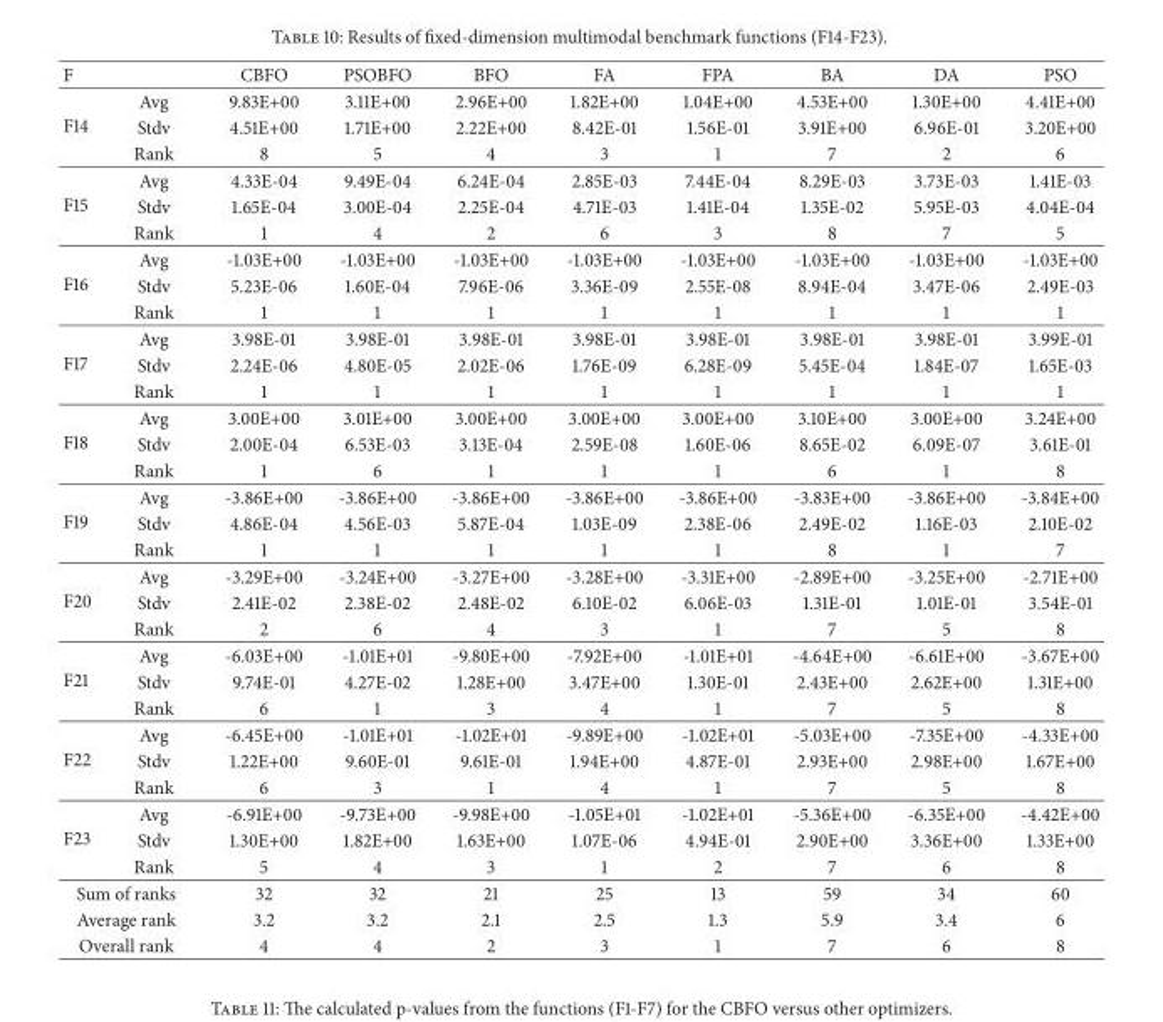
<table><thead><tr><td>F</td><td></td><td>CBFO</td><td>PSOBFO</td><td>BFO</td><td>FA</td><td>FPA</td><td>BA</td><td>DA</td><td>PSO</td></tr></thead><tbody><tr><td rowspan="3">F14</td><td>Avg</td><td>9.83E+00</td><td>3.11E+00</td><td>2.96E+00</td><td>1.82E+00</td><td>1.04E+00</td><td>4.53E+00</td><td>1.30E+00</td><td>4.41E+00</td></tr><tr><td>Stdv</td><td>4.51E+00</td><td>1.71E+00</td><td>2.22E+00</td><td>8.42E-01</td><td>1.56E-01</td><td>3.91E+00</td><td>6.96E-01</td><td>3.20E+00</td></tr><tr><td>Rank</td><td>8</td><td>5</td><td>4</td><td>3</td><td>1</td><td>7</td><td>2</td><td>6</td></tr><tr><td rowspan="3">F15</td><td>Avg</td><td>4.33E-04</td><td>9.49E-04</td><td>6.24E-04</td><td>2.85E-03</td><td>7.44E-04</td><td>8.29E-03</td><td>3.73E-03</td><td>1.41E-03</td></tr><tr><td>Stdv</td><td>1.65E-04</td><td>3.00E-04</td><td>2.25E-04</td><td>4.71E-03</td><td>1.41E-04</td><td>1.35E-02</td><td>5.95E-03</td><td>4.04E-04</td></tr><tr><td>Rank</td><td>1</td><td>4</td><td>2</td><td>6</td><td>3</td><td>8</td><td>7</td><td>5</td></tr><tr><td rowspan="3">F16</td><td>Avg</td><td>-1.03E+00</td><td>-1.03E+00</td><td>-1.03E+00</td><td>-1.03E+00</td><td>-1.03E+00</td><td>-1.03E+00</td><td>-1.03E+00</td><td>-1.03E+00</td></tr><tr><td>Stdv</td><td>5.23E-06</td><td>1.60E-04</td><td>7.96E-06</td><td>3.36E-09</td><td>2.55E-08</td><td>8.94E-04</td><td>3.47E-06</td><td>2.49E-03</td></tr><tr><td>Rank</td><td>1</td><td>1</td><td>1</td><td>1</td><td>1</td><td>1</td><td>1</td><td>1</td></tr><tr><td rowspan="3">F17</td><td>Avg</td><td>3.98E-01</td><td>3.98E-01</td><td>3.98E-01</td><td>3.98E-01</td><td>3.98E-01</td><td>3.98E-01</td><td>3.98E-01</td><td>3.99E-01</td></tr><tr><td>Stdv</td><td>2.24E-06</td><td>4.80E-05</td><td>2.02E-06</td><td>1.76E-09</td><td>6.28E-09</td><td>5.45E-04</td><td>1.84E-07</td><td>1.65E-03</td></tr><tr><td>Rank</td><td>1</td><td>1</td><td>1</td><td>1</td><td>1</td><td>1</td><td>1</td><td>1</td></tr><tr><td rowspan="3">F18</td><td>Avg</td><td>3.00E+00</td><td>3.01E+00</td><td>3.00E+00</td><td>3.00E+00</td><td>3.00E+00</td><td>3.10E+00</td><td>3.00E+00</td><td>3.24E+00</td></tr><tr><td>Stdv</td><td>2.00E-04</td><td>6.53E-03</td><td>3.13E-04</td><td>2.59E-08</td><td>1.60E-06</td><td>8.65E-02</td><td>6.09E-07</td><td>3.61E-01</td></tr><tr><td>Rank</td><td>1</td><td>6</td><td>1</td><td>1</td><td>1</td><td>6</td><td>1</td><td>8</td></tr><tr><td rowspan="3">F19</td><td>Avg</td><td>-3.86E+00</td><td>-3.86E+00</td><td>-3.86E+00</td><td>-3.86E+00</td><td>-3.86E+00</td><td>-3.83E+00</td><td>-3.86E+00</td><td>-3.84E+00</td></tr><tr><td>Stdv</td><td>4.86E-04</td><td>4.56E-03</td><td>5.87E-04</td><td>1.03E-09</td><td>2.38E-06</td><td>2.49E-02</td><td>1.16E-03</td><td>2.10E-02</td></tr><tr><td>Rank</td><td>1</td><td>1</td><td>1</td><td>1</td><td>1</td><td>8</td><td>1</td><td>7</td></tr><tr><td rowspan="3">F20</td><td>Avg</td><td>-3.29E+00</td><td>-3.24E+00</td><td>-3.27E+00</td><td>-3.28E+00</td><td>-3.31E+00</td><td>-2.89E+00</td><td>-3.25E+00</td><td>-2.71E+00</td></tr><tr><td>Stdv</td><td>2.41E-02</td><td>2.38E-02</td><td>2.48E-02</td><td>6.10E-02</td><td>6.06E-03</td><td>1.31E-01</td><td>1.01E-01</td><td>3.54E-01</td></tr><tr><td>Rank</td><td>2</td><td>6</td><td>4</td><td>3</td><td>1</td><td>7</td><td>5</td><td>8</td></tr><tr><td rowspan="3">F21</td><td>Avg</td><td>-6.03E+00</td><td>-1.01E+01</td><td>-9.80E+00</td><td>-7.92E+00</td><td>-1.01E+01</td><td>-4.64E+00</td><td>-6.61E+00</td><td>-3.67E+00</td></tr><tr><td>Stdv</td><td>9.74E-01</td><td>4.27E-02</td><td>1.28E+00</td><td>3.47E+00</td><td>1.30E-01</td><td>2.43E+00</td><td>2.62E+00</td><td>1.31E+00</td></tr><tr><td>Rank</td><td>6</td><td>1</td><td>3</td><td>4</td><td>1</td><td>7</td><td>5</td><td>8</td></tr><tr><td rowspan="3">F22</td><td>Avg</td><td>-6.45E+00</td><td>-1.01E+01</td><td>-1.02E+01</td><td>-9.89E+00</td><td>-1.02E+01</td><td>-5.03E+00</td><td>-7.35E+00</td><td>-4.33E+00</td></tr><tr><td>Stdv</td><td>1.22E+00</td><td>9.60E-01</td><td>9.61E-01</td><td>1.94E+00</td><td>4.87E-01</td><td>2.93E+00</td><td>2.98E+00</td><td>1.67E+00</td></tr><tr><td>Rank</td><td>6</td><td>3</td><td>1</td><td>4</td><td>1</td><td>7</td><td>5</td><td>8</td></tr><tr><td rowspan="3">F23</td><td>Avg</td><td>-6.91E+00</td><td>-9.73E+00</td><td>-9.98E+00</td><td>-1.05E+01</td><td>-1.02E+01</td><td>-5.36E+00</td><td>-6.35E+00</td><td>-4.42E+00</td></tr><tr><td>Stdv</td><td>1.30E+00</td><td>1.82E+00</td><td>1.63E+00</td><td>1.07E-06</td><td>4.94E-01</td><td>2.90E+00</td><td>3.36E+00</td><td>1.33E+00</td></tr><tr><td>Rank</td><td>5</td><td>4</td><td>3</td><td>1</td><td>2</td><td>7</td><td>6</td><td>8</td></tr><tr><td colspan="2">Sum of ranks</td><td>32</td><td>32</td><td>21</td><td>25</td><td>13</td><td>59</td><td>34</td><td>60</td></tr><tr><td colspan="2">Average rank</td><td>3.2</td><td>3.2</td><td>2.1</td><td>2.5</td><td>1.3</td><td>5.9</td><td>3.4</td><td>6</td></tr><tr><td colspan="2">Overall rank</td><td>4</td><td>4</td><td>2</td><td>3</td><td>1</td><td>7</td><td>6</td><td>8</td></tr></tbody></table>